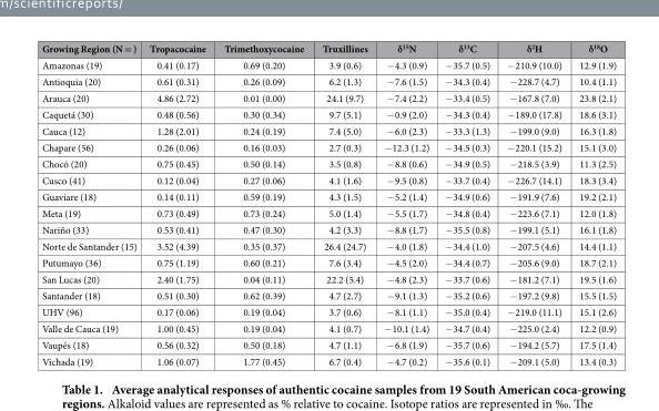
<table><thead><tr><td>Growing Region (N = )</td><td>Tropacocaine</td><td>Trimethoxycocaine</td><td>Truxillines</td><td>δ<sup>15</sup>N</td><td>δ<sup>13</sup>C</td><td>δ<sup>2</sup>H</td><td>δ<sup>18</sup>O</td></tr></thead><tbody><tr><td>Amazonas (19)</td><td>0.41 (0.17)</td><td>0.69 (0.20)</td><td>3.9 (0.6)</td><td>− 4.3 (0.9)</td><td>− 35.7 (0.5)</td><td>− 210.9 (10.0)</td><td>12.9 (1.9)</td></tr><tr><td>Antioquia (20)</td><td>0.61 (0.31)</td><td>0.26 (0.09)</td><td>6.2 (1.3)</td><td>− 7.6 (1.5)</td><td>− 34.3 (0.4)</td><td>− 228.7 (4.7)</td><td>10.4 (1.1)</td></tr><tr><td>Arauca (20)</td><td>4.86 (2.72)</td><td>0.01 (0.00)</td><td>24.1 (9.7)</td><td>− 7.4 (2.2)</td><td>− 33.4 (0.5)</td><td>− 167.8 (7.0)</td><td>23.8 (2.1)</td></tr><tr><td>Caquetá (30)</td><td>0.48 (0.56)</td><td>0.30 (0.34)</td><td>9.7 (5.1)</td><td>− 0.9 (2.0)</td><td>− 34.3 (0.4)</td><td>− 189.0 (17.8)</td><td>18.6 (3.1)</td></tr><tr><td>Cauca (12)</td><td>1.28 (2.01)</td><td>0.24 (0.19)</td><td>7.4 (5.0)</td><td>− 6.0 (2.3)</td><td>− 33.3 (1.3)</td><td>− 199.0 (9.0)</td><td>16.3 (1.8)</td></tr><tr><td>Chapare (56)</td><td>0.26 (0.06)</td><td>0.16 (0.03)</td><td>2.7 (0.3)</td><td>− 12.3 (1.2)</td><td>− 34.5 (0.3)</td><td>− 220.1 (15.2)</td><td>15.1 (3.0)</td></tr><tr><td>Chocó (20)</td><td>0.75 (0.45)</td><td>0.50 (0.14)</td><td>3.5 (0.8)</td><td>− 8.8 (0.6)</td><td>− 34.9 (0.5)</td><td>− 218.5 (3.9)</td><td>11.3 (2.5)</td></tr><tr><td>Cusco (41)</td><td>0.12 (0.04)</td><td>0.27 (0.06)</td><td>4.1 (1.6)</td><td>− 9.5 (0.8)</td><td>− 33.7 (0.4)</td><td>− 226.7 (14.1)</td><td>18.3 (3.4)</td></tr><tr><td>Guaviare (18)</td><td>0.14 (0.11)</td><td>0.59 (0.19)</td><td>4.3 (1.5)</td><td>− 5.2 (1.4)</td><td>− 34.9 (0.6)</td><td>− 191.9 (7.6)</td><td>19.2 (2.1)</td></tr><tr><td>Meta (19)</td><td>0.73 (0.49)</td><td>0.73 (0.24)</td><td>5.0 (1.4)</td><td>− 5.5 (1.7)</td><td>− 34.8 (0.4)</td><td>− 223.6 (7.1)</td><td>12.0 (1.8)</td></tr><tr><td>Nariño (33)</td><td>0.53 (0.41)</td><td>0.47 (0.30)</td><td>4.2 (3.3)</td><td>− 8.8 (1.7)</td><td>− 35.5 (0.8)</td><td>− 199.1 (5.1)</td><td>16.1 (1.8)</td></tr><tr><td>Norte de Santander (15)</td><td>3.52 (4.39)</td><td>0.35 (0.37)</td><td>26.4 (24.7)</td><td>− 4.0 (1.8)</td><td>− 34.4 (1.0)</td><td>− 207.5 (4.6)</td><td>14.4 (1.1)</td></tr><tr><td>Putumayo (36)</td><td>0.75 (1.19)</td><td>0.60 (0.21)</td><td>7.6 (3.4)</td><td>− 4.5 (2.0)</td><td>− 34.4 (0.7)</td><td>− 205.6 (9.0)</td><td>18.7 (2.1)</td></tr><tr><td>San Lucas (20)</td><td>2.40 (1.75)</td><td>0.04 (0.11)</td><td>22.2 (5.4)</td><td>− 4.8 (2.3)</td><td>− 33.7 (0.6)</td><td>− 181.2 (7.1)</td><td>19.5 (1.6)</td></tr><tr><td>Santander (18)</td><td>0.51 (0.30)</td><td>0.62 (0.39)</td><td>4.7 (2.7)</td><td>− 9.1 (1.3)</td><td>− 35.2 (0.6)</td><td>− 197.2 (9.8)</td><td>15.5 (1.5)</td></tr><tr><td>UHV (96)</td><td>0.17 (0.06)</td><td>0.19 (0.04)</td><td>3.7 (0.6)</td><td>− 8.1 (1.1)</td><td>− 35.0 (0.4)</td><td>− 219.0 (11.1)</td><td>15.1 (2.6)</td></tr><tr><td>Valle de Cauca (19)</td><td>1.00 (0.45)</td><td>0.19 (0.04)</td><td>4.1 (0.7)</td><td>− 10.1 (1.4)</td><td>− 34.7 (0.4)</td><td>− 225.0 (2.4)</td><td>12.2 (0.9)</td></tr><tr><td>Vaupés (18)</td><td>0.56 (0.32)</td><td>0.50 (0.18)</td><td>4.7 (1.1)</td><td>− 6.8 (1.9)</td><td>− 35.7 (0.6)</td><td>− 194.2 (5.7)</td><td>17.5 (1.4)</td></tr><tr><td>Vichada (19)</td><td>1.06 (0.07)</td><td>1.77 (0.45)</td><td>6.7 (0.4)</td><td>− 4.7 (0.2)</td><td>− 35.6 (0.1)</td><td>− 209.1 (5.0)</td><td>13.4 (0.3)</td></tr></tbody></table>